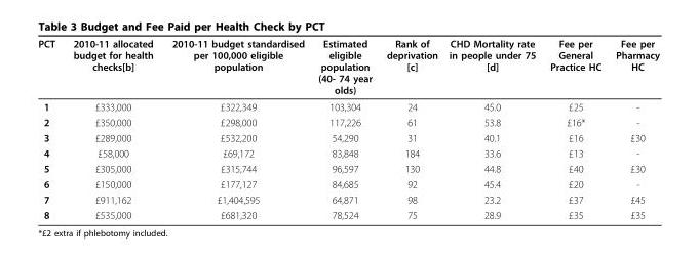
<table><thead><tr><td>PCT</td><td>2010-11 allocated budget for health checks[b]</td><td>2010-11 budget standardised per 100,000 eligible population</td><td>Estimated eligible population (40- 74 year olds)</td><td>Rank of deprivation [c]</td><td>CHD Mortality rate in people under 75 [d]</td><td>Fee per General Practice HC</td><td>Fee per Pharmacy HC</td></tr></thead><tbody><tr><td>1</td><td>£333,000</td><td>£322,349</td><td>103,304</td><td>24</td><td>45.0</td><td>£25</td><td>-</td></tr><tr><td>2</td><td>£350,000</td><td>£298,000</td><td>117,226</td><td>61</td><td>53.8</td><td>£16*</td><td>-</td></tr><tr><td>3</td><td>£289,000</td><td>£532,200</td><td>54,290</td><td>31</td><td>40.1</td><td>£16</td><td>£30</td></tr><tr><td>4</td><td>£58,000</td><td>£69,172</td><td>83,848</td><td>184</td><td>33.6</td><td>£13</td><td>-</td></tr><tr><td>5</td><td>£305,000</td><td>£315,744</td><td>96,597</td><td>130</td><td>44.8</td><td>£40</td><td>£30</td></tr><tr><td>6</td><td>£150,000</td><td>£177,127</td><td>84,685</td><td>92</td><td>45.4</td><td>£20</td><td>-</td></tr><tr><td>7</td><td>£911,162</td><td>£1,404,595</td><td>64,871</td><td>98</td><td>23.2</td><td>£37</td><td>£45</td></tr><tr><td>8</td><td>£535,000</td><td>£681,320</td><td>78,524</td><td>75</td><td>28.9</td><td>£35</td><td>£35</td></tr></tbody></table>